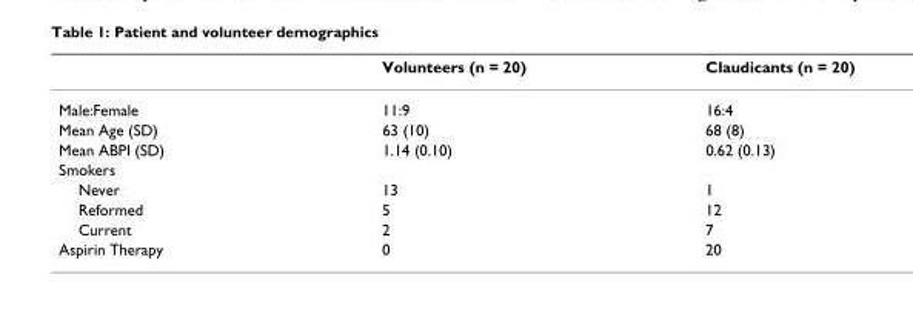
<table><thead><tr><td></td><td>Volunteers (n = 20)</td><td>Claudicants (n = 20)</td></tr></thead><tbody><tr><td>Male:Female</td><td>11:9</td><td>16:4</td></tr><tr><td>Mean Age (SD)</td><td>63 (10)</td><td>68 (8)</td></tr><tr><td>Mean ABPI (SD)</td><td>1.14 (0.10)</td><td>0.62 (0.13)</td></tr><tr><td colspan="3">Smokers</td></tr><tr><td>Never</td><td>13</td><td>1</td></tr><tr><td>Reformed</td><td>5</td><td>12</td></tr><tr><td>Current</td><td>2</td><td>7</td></tr><tr><td>Aspirin Therapy</td><td>0</td><td>20</td></tr></tbody></table>